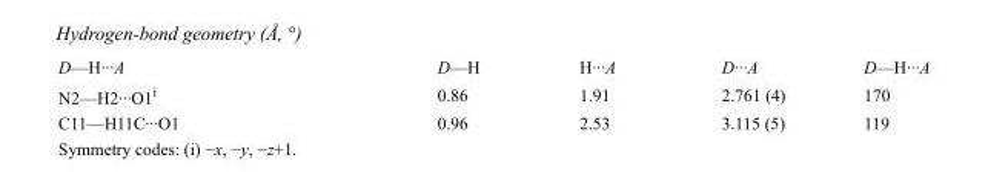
<table><tbody><tr><td>D—H···A</td><td>D—H</td><td>H···A</td><td>D···A</td><td>D—H···A</td></tr><tr><td>N2—H2···O1<sup>i</sup></td><td>0.86</td><td>1.91</td><td>2.761 (4)</td><td>170</td></tr><tr><td>C11—H11C···O1</td><td>0.96</td><td>2.53</td><td>3.115 (5)</td><td>119</td></tr></tbody></table>